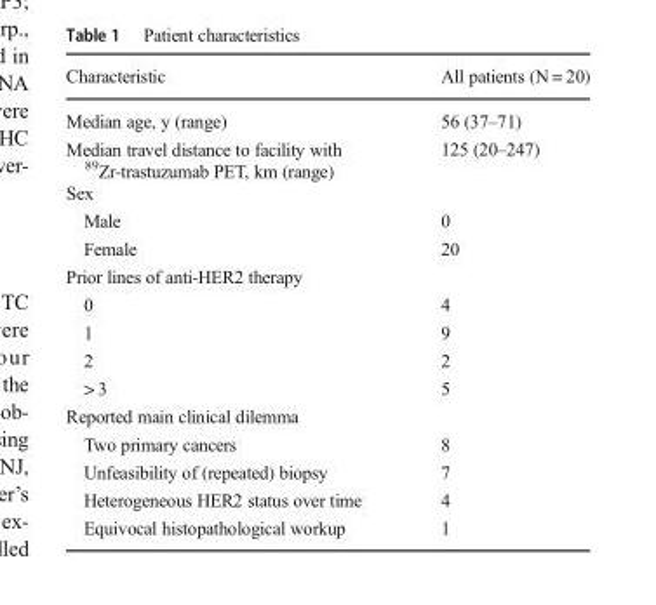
<table><thead><tr><td>Characteristic</td><td>All patients (N = 20)</td></tr></thead><tbody><tr><td>Median age, y (range)</td><td>56 (37–71)</td></tr><tr><td>Median travel distance to facility with <sup>89</sup>Zr-trastuzumab PET, km (range)</td><td>125 (20–247)</td></tr><tr><td colspan="2">Sex</td></tr><tr><td>Male</td><td>0</td></tr><tr><td>Female</td><td>20</td></tr><tr><td colspan="2">Prior lines of anti-HER2 therapy</td></tr><tr><td>0</td><td>4</td></tr><tr><td>1</td><td>9</td></tr><tr><td>2</td><td>2</td></tr><tr><td>&gt; 3</td><td>5</td></tr><tr><td colspan="2">Reported main clinical dilemma</td></tr><tr><td>Two primary cancers</td><td>8</td></tr><tr><td>Unfeasibility of (repeated) biopsy</td><td>7</td></tr><tr><td>Heterogeneous HER2 status over time</td><td>4</td></tr><tr><td>Equivocal histopathological workup</td><td>1</td></tr></tbody></table>